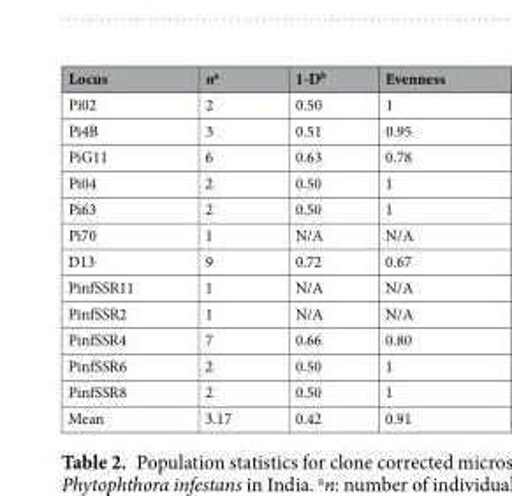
<table><thead><tr><td>Locus</td><td>n<sup>a</sup></td><td>1-D<sup>b</sup></td><td>Evenness</td></tr></thead><tbody><tr><td>Pi02</td><td>2</td><td>0.50</td><td>1</td></tr><tr><td>Pi4B</td><td>3</td><td>0.51</td><td>0.95</td></tr><tr><td>PiG11</td><td>6</td><td>0.63</td><td>0.78</td></tr><tr><td>Pi04</td><td>2</td><td>0.50</td><td>1</td></tr><tr><td>Pi63</td><td>2</td><td>0.50</td><td>1</td></tr><tr><td>Pi70</td><td>1</td><td>N/A</td><td>N/A</td></tr><tr><td>D13</td><td>9</td><td>0.72</td><td>0.67</td></tr><tr><td>PinfSSR11</td><td>1</td><td>N/A</td><td>N/A</td></tr><tr><td>PinfSSR2</td><td>1</td><td>N/A</td><td>N/A</td></tr><tr><td>PinfSSR4</td><td>7</td><td>0.66</td><td>0.80</td></tr><tr><td>PinfSSR6</td><td>2</td><td>0.50</td><td>1</td></tr><tr><td>PinfSSR8</td><td>2</td><td>0.50</td><td>1</td></tr><tr><td>Mean</td><td>3.17</td><td>0.42</td><td>0.91</td></tr></tbody></table>